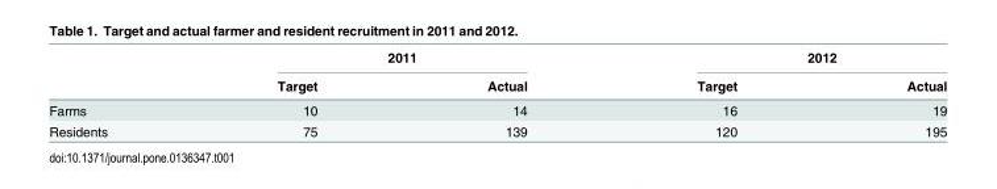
<table><thead><tr><td rowspan="2"></td><td colspan="2">2011</td><td colspan="2">2012</td></tr><tr><td>Target</td><td>Actual</td><td>Target</td><td>Actual</td></tr></thead><tbody><tr><td>Farms</td><td>10</td><td>14</td><td>16</td><td>19</td></tr><tr><td>Residents</td><td>75</td><td>139</td><td>120</td><td>195</td></tr></tbody></table>